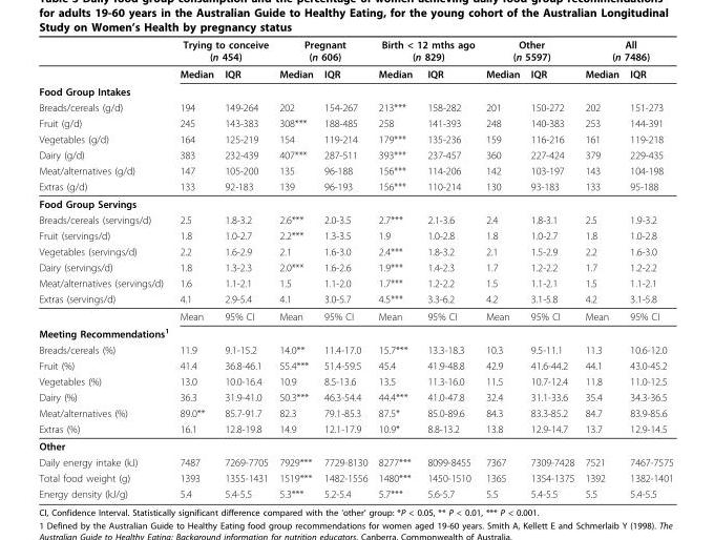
<table><thead><tr><td rowspan="2"></td><td colspan="2">Trying to conceive (n 454)</td><td colspan="2">Pregnant (n 606)</td><td colspan="2">Birth &lt; 12 mths ago (n 829)</td><td colspan="2">Other (n 5597)</td><td colspan="2">All (n 7486)</td></tr><tr><td>Median</td><td>IQR</td><td>Median</td><td>IQR</td><td>Median</td><td>IQR</td><td>Median</td><td>IQR</td><td>Median</td><td>IQR</td></tr></thead><tbody><tr><td colspan="11">Food Group Intakes</td></tr><tr><td>Breads/cereals (g/d)</td><td>194</td><td>149-264</td><td>202</td><td>154-267</td><td>213***</td><td>158-282</td><td>201</td><td>150-272</td><td>202</td><td>151-273</td></tr><tr><td>Fruit (g/d)</td><td>245</td><td>143-383</td><td>308***</td><td>188-485</td><td>258</td><td>141-393</td><td>248</td><td>140-383</td><td>253</td><td>144-391</td></tr><tr><td>Vegetables (g/d)</td><td>164</td><td>125-219</td><td>154</td><td>119-214</td><td>179***</td><td>135-236</td><td>159</td><td>116-216</td><td>161</td><td>119-218</td></tr><tr><td>Dairy (g/d)</td><td>383</td><td>232-439</td><td>407***</td><td>287-511</td><td>393***</td><td>237-457</td><td>360</td><td>227-424</td><td>379</td><td>229-435</td></tr><tr><td>Meat/alternatives (g/d)</td><td>147</td><td>105-200</td><td>135</td><td>96-188</td><td>156***</td><td>114-206</td><td>142</td><td>103-197</td><td>143</td><td>104-198</td></tr><tr><td>Extras (g/d)</td><td>133</td><td>92-183</td><td>139</td><td>96-193</td><td>156***</td><td>110-214</td><td>130</td><td>93-183</td><td>133</td><td>95-188</td></tr><tr><td colspan="11">Food Group Servings</td></tr><tr><td>Breads/cereals (servings/d)</td><td>2.5</td><td>1.8-3.2</td><td>2.6***</td><td>2.0-3.5</td><td>2.7***</td><td>2.1-3.6</td><td>2.4</td><td>1.8-3.1</td><td>2.5</td><td>1.9-3.2</td></tr><tr><td>Fruit (servings/d)</td><td>1.8</td><td>1.0-2.7</td><td>2.2***</td><td>1.3-3.5</td><td>1.9</td><td>1.0-2.8</td><td>1.8</td><td>1.0-2.7</td><td>1.8</td><td>1.0-2.8</td></tr><tr><td>Vegetables (servings/d)</td><td>2.2</td><td>1.6-2.9</td><td>2.1</td><td>1.6-3.0</td><td>2.4***</td><td>1.8-3.2</td><td>2.1</td><td>1.5-2.9</td><td>2.2</td><td>1.6-3.0</td></tr><tr><td>Dairy (servings/d)</td><td>1.8</td><td>1.3-2.3</td><td>2.0***</td><td>1.6-2.6</td><td>1.9***</td><td>1.4-2.3</td><td>1.7</td><td>1.2-2.2</td><td>1.7</td><td>1.2-2.2</td></tr><tr><td>Meat/alternatives (servings/d)</td><td>1.6</td><td>1.1-2.1</td><td>1.5</td><td>1.1-2.0</td><td>1.7***</td><td>1.2-2.2</td><td>1.5</td><td>1.1-2.1</td><td>1.5</td><td>1.1-2.1</td></tr><tr><td rowspan="2">Extras (servings/d)</td><td>4.1</td><td>2.9-5.4</td><td>4.1</td><td>3.0-5.7</td><td>4.5***</td><td>3.3-6.2</td><td>4.2</td><td>3.1-5.8</td><td>4.2</td><td>3.1-5.8</td></tr><tr><td>Mean</td><td>95% CI</td><td>Mean</td><td>95% CI</td><td>Mean</td><td>95% CI</td><td>Mean</td><td>95% CI</td><td>Mean</td><td>95% CI</td></tr><tr><td colspan="11">Meeting Recommendations<sup>1</sup></td></tr><tr><td>Breads/cereals (%)</td><td>11.9</td><td>9.1-15.2</td><td>14.0**</td><td>11.4-17.0</td><td>15.7***</td><td>13.3-18.3</td><td>10.3</td><td>9.5-11.1</td><td>11.3</td><td>10.6-12.0</td></tr><tr><td>Fruit (%)</td><td>41.4</td><td>36.8-46.1</td><td>55.4***</td><td>51.4-59.5</td><td>45.4</td><td>41.9-48.8</td><td>42.9</td><td>41.6-44.2</td><td>44.1</td><td>43.0-45.2</td></tr><tr><td>Vegetables (%)</td><td>13.0</td><td>10.0-16.4</td><td>10.9</td><td>8.5-13.6</td><td>13.5</td><td>11.3-16.0</td><td>11.5</td><td>10.7-12.4</td><td>11.8</td><td>11.0-12.5</td></tr><tr><td>Dairy (%)</td><td>36.3</td><td>31.9-41.0</td><td>50.3***</td><td>46.3-54.4</td><td>44.4***</td><td>41.0-47.8</td><td>32.4</td><td>31.1-33.6</td><td>35.4</td><td>34.3-36.5</td></tr><tr><td>Meat/alternatives (%)</td><td>89.0**</td><td>85.7-91.7</td><td>82.3</td><td>79.1-85.3</td><td>87.5*</td><td>85.0-89.6</td><td>84.3</td><td>83.3-85.2</td><td>84.7</td><td>83.9-85.6</td></tr><tr><td>Extras (%)</td><td>16.1</td><td>12.8-19.8</td><td>14.9</td><td>12.1-17.9</td><td>10.9*</td><td>8.8-13.2</td><td>13.8</td><td>12.9-14.7</td><td>13.7</td><td>12.9-14.5</td></tr><tr><td colspan="11">Other</td></tr><tr><td>Daily energy intake (kJ)</td><td>7487</td><td>7269-7705</td><td>7929***</td><td>7729-8130</td><td>8277***</td><td>8099-8455</td><td>7367</td><td>7309-7428</td><td>7521</td><td>7467-7575</td></tr><tr><td>Total food weight (g)</td><td>1393</td><td>1355-1431</td><td>1519***</td><td>1482-1556</td><td>1480***</td><td>1450-1510</td><td>1365</td><td>1354-1375</td><td>1392</td><td>1382-1401</td></tr><tr><td>Energy density (kJ/g)</td><td>5.4</td><td>5.4-5.5</td><td>5.3***</td><td>5.2-5.4</td><td>5.7***</td><td>5.6-5.7</td><td>5.5</td><td>5.4-5.5</td><td>5.5</td><td>5.4-5.5</td></tr></tbody></table>